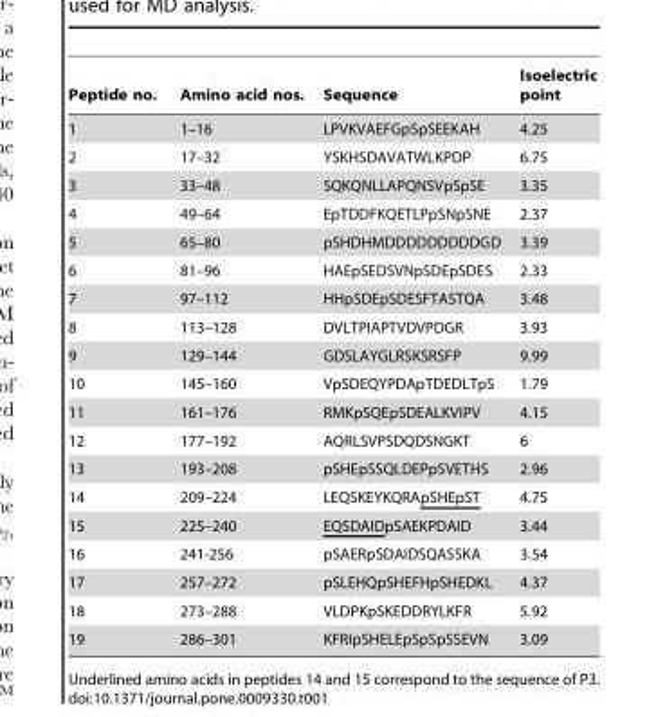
<table><thead><tr><td>Peptide no.</td><td>Amino acid nos.</td><td>Sequence</td><td>Isoelectric point</td></tr></thead><tbody><tr><td>1</td><td>1–16</td><td>LPVKVAEFGpSpSEEKAH</td><td>4.25</td></tr><tr><td>2</td><td>17–32</td><td>YSKHSDAVATWLKPDP</td><td>6.75</td></tr><tr><td>3</td><td>33–48</td><td>SQKQNLLAPQNSVpSpSE</td><td>3.35</td></tr><tr><td>4</td><td>49–64</td><td>EpTDDFKQETLPpSNpSNE</td><td>2.37</td></tr><tr><td>5</td><td>65–80</td><td>pSHDHMDDDDDDDDDGD</td><td>3.39</td></tr><tr><td>6</td><td>81–96</td><td>HAEpSEDSVNpSDEpSDES</td><td>2.33</td></tr><tr><td>7</td><td>97–112</td><td>HHpSDEpSDESFTASTQA</td><td>3.48</td></tr><tr><td>8</td><td>113–128</td><td>DVLTPIAPTVDVPDGR</td><td>3.93</td></tr><tr><td>9</td><td>129–144</td><td>GDSLAYGLRSKSRSFP</td><td>9.99</td></tr><tr><td>10</td><td>145–160</td><td>VpSDEQYPDApTDEDLTpS</td><td>1.79</td></tr><tr><td>11</td><td>161–176</td><td>RMKpSQEpSDEALKVIPV</td><td>4.15</td></tr><tr><td>12</td><td>177–192</td><td>AQRLSVPSDQDSNGKT</td><td>6</td></tr><tr><td>13</td><td>193–208</td><td>pSHEpSSQLDEPpSVETHS</td><td>2.96</td></tr><tr><td>14</td><td>209–224</td><td>LEQSKEYKQRApSHEpST</td><td>4.75</td></tr><tr><td>15</td><td>225–240</td><td>EQSDAIDpSAEKPDAID</td><td>3.44</td></tr><tr><td>16</td><td>241-256</td><td>pSAERpSDAIDSQASSKA</td><td>3.54</td></tr><tr><td>17</td><td>257–272</td><td>pSLEHQpSHEFHpSHEDKL</td><td>4.37</td></tr><tr><td>18</td><td>273–288</td><td>VLDPKpSKEDDRYLKFR</td><td>5.92</td></tr><tr><td>19</td><td>286–301</td><td>KFRIpSHELEpSpSpSSEVN</td><td>3.09</td></tr></tbody></table>